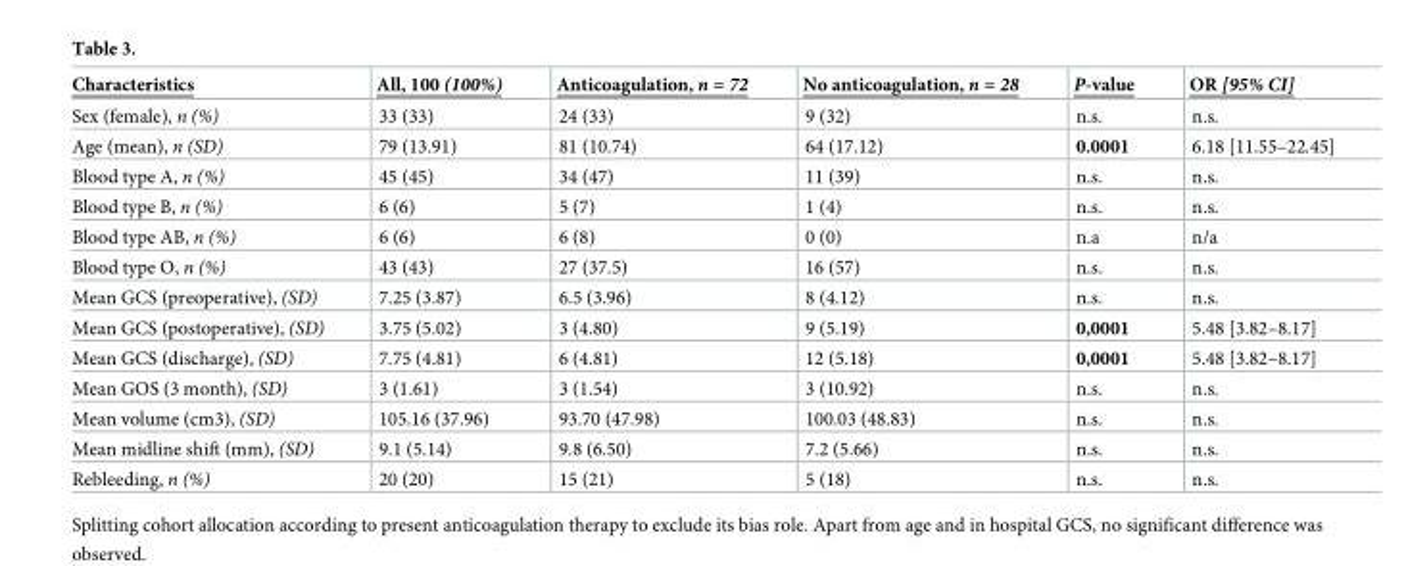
<table><thead><tr><td>Characteristics</td><td>All, 100 (100%)</td><td>Anticoagulation, n = 72</td><td>No anticoagulation, n = 28</td><td>P-value</td><td>OR [95% CI]</td></tr></thead><tbody><tr><td>Sex (female), n (%)</td><td>33 (33)</td><td>24 (33)</td><td>9 (32)</td><td>n.s.</td><td>n.s.</td></tr><tr><td>Age (mean), n (SD)</td><td>79 (13.91)</td><td>81 (10.74)</td><td>64 (17.12)</td><td>0.0001</td><td>6.18 [11.55–22.45]</td></tr><tr><td>Blood type A, n (%)</td><td>45 (45)</td><td>34 (47)</td><td>11 (39)</td><td>n.s.</td><td>n.s.</td></tr><tr><td>Blood type B, n (%)</td><td>6 (6)</td><td>5 (7)</td><td>1 (4)</td><td>n.s.</td><td>n.s.</td></tr><tr><td>Blood type AB, n (%)</td><td>6 (6)</td><td>6 (8)</td><td>0 (0)</td><td>n.a</td><td>n/a</td></tr><tr><td>Blood type O, n (%)</td><td>43 (43)</td><td>27 (37.5)</td><td>16 (57)</td><td>n.s.</td><td>n.s.</td></tr><tr><td>Mean GCS (preoperative), (SD)</td><td>7.25 (3.87)</td><td>6.5 (3.96)</td><td>8 (4.12)</td><td>n.s.</td><td>n.s.</td></tr><tr><td>Mean GCS (postoperative), (SD)</td><td>3.75 (5.02)</td><td>3 (4.80)</td><td>9 (5.19)</td><td>0,0001</td><td>5.48 [3.82–8.17]</td></tr><tr><td>Mean GCS (discharge), (SD)</td><td>7.75 (4.81)</td><td>6 (4.81)</td><td>12 (5.18)</td><td>0,0001</td><td>5.48 [3.82–8.17]</td></tr><tr><td>Mean GOS (3 month), (SD)</td><td>3 (1.61)</td><td>3 (1.54)</td><td>3 (10.92)</td><td>n.s.</td><td>n.s.</td></tr><tr><td>Mean volume (cm3), (SD)</td><td>105.16 (37.96)</td><td>93.70 (47.98)</td><td>100.03 (48.83)</td><td>n.s.</td><td>n.s.</td></tr><tr><td>Mean midline shift (mm), (SD)</td><td>9.1 (5.14)</td><td>9.8 (6.50)</td><td>7.2 (5.66)</td><td>n.s.</td><td>n.s.</td></tr><tr><td>Rebleeding, n (%)</td><td>20 (20)</td><td>15 (21)</td><td>5 (18)</td><td>n.s.</td><td>n.s.</td></tr></tbody></table>